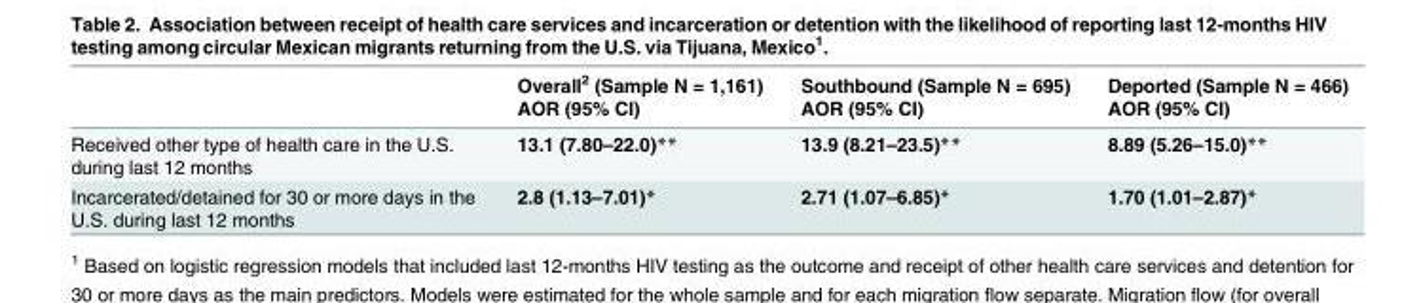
<table><thead><tr><td></td><td>Overall<sup>2</sup> (Sample N = 1,161) AOR (95% CI)</td><td>Southbound (Sample N = 695) AOR (95% CI)</td><td>Deported (Sample N = 466) AOR (95% CI)</td></tr></thead><tbody><tr><td>Received other type of health care in the U.S. during last 12 months</td><td>13.1 (7.80–22.0)**</td><td>13.9 (8.21–23.5)**</td><td>8.89 (5.26–15.0)**</td></tr><tr><td>Incarcerated/detained for 30 or more days in the U.S. during last 12 months</td><td>2.8 (1.13–7.01)*</td><td>2.71 (1.07–6.85)*</td><td>1.70 (1.01–2.87)*</td></tr></tbody></table>